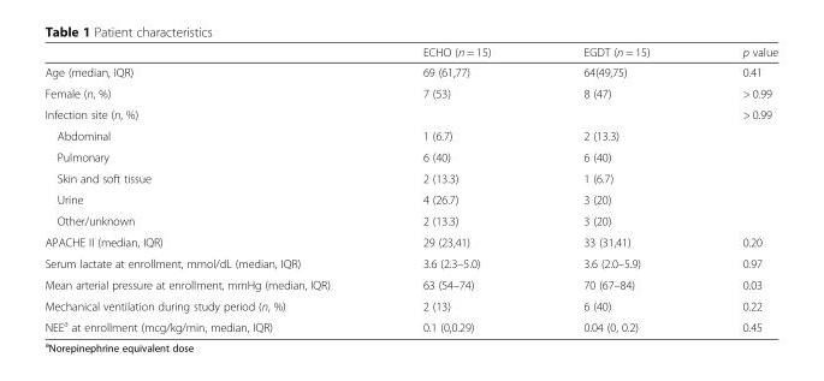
<table><thead><tr><td></td><td>ECHO (n = 15)</td><td>EGDT (n = 15)</td><td>p value</td></tr></thead><tbody><tr><td>Age (median, IQR)</td><td>69 (61,77)</td><td>64(49,75)</td><td>0.41</td></tr><tr><td>Female (n, %)</td><td>7 (53)</td><td>8 (47)</td><td>&gt; 0.99</td></tr><tr><td colspan="3">Infection site (n, %)</td><td rowspan="6">&gt; 0.99</td></tr><tr><td>Abdominal</td><td>1 (6.7)</td><td>2 (13.3)</td></tr><tr><td>Pulmonary</td><td>6 (40)</td><td>6 (40)</td></tr><tr><td>Skin and soft tissue</td><td>2 (13.3)</td><td>1 (6.7)</td></tr><tr><td>Urine</td><td>4 (26.7)</td><td>3 (20)</td></tr><tr><td>Other/unknown</td><td>2 (13.3)</td><td>3 (20)</td></tr><tr><td>APACHE II (median, IQR)</td><td>29 (23,41)</td><td>33 (31,41)</td><td>0.20</td></tr><tr><td>Serum lactate at enrollment, mmol/dL (median, IQR)</td><td>3.6 (2.3–5.0)</td><td>3.6 (2.0–5.9)</td><td>0.97</td></tr><tr><td>Mean arterial pressure at enrollment, mmHg (median, IQR)</td><td>63 (54–74)</td><td>70 (67–84)</td><td>0.03</td></tr><tr><td>Mechanical ventilation during study period (n, %)</td><td>2 (13)</td><td>6 (40)</td><td>0.22</td></tr><tr><td>NEE<sup>a</sup> at enrollment (mcg/kg/min, median, IQR)</td><td>0.1 (0,0.29)</td><td>0.04 (0, 0.2)</td><td>0.45</td></tr></tbody></table>